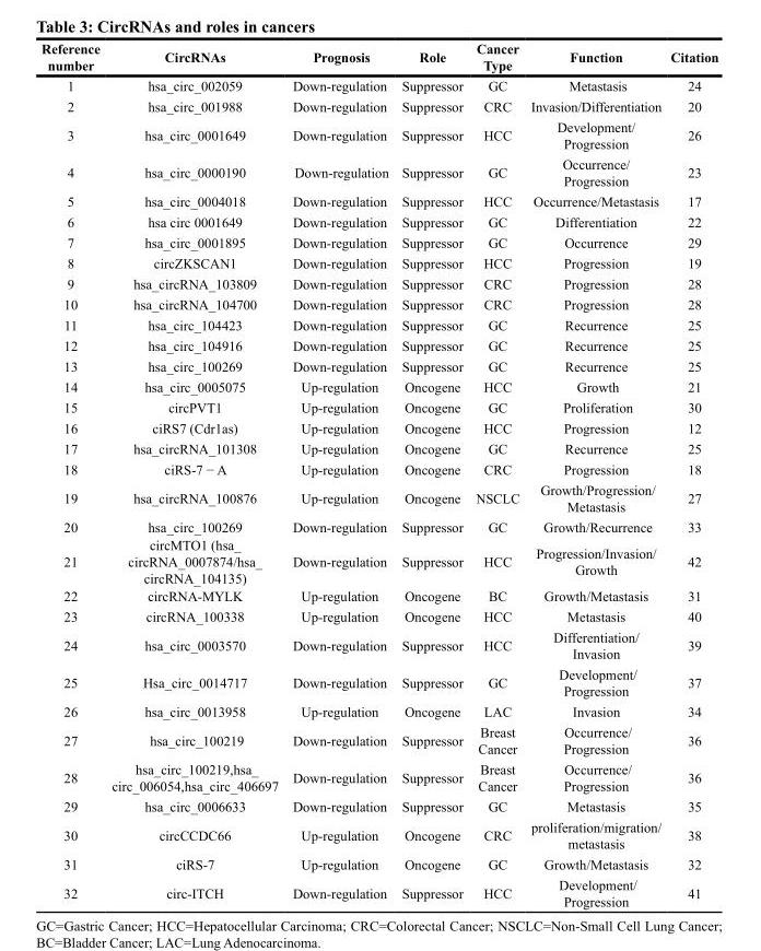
<table><thead><tr><td>Reference number</td><td>CircRNAs</td><td>Prognosis</td><td>Role</td><td>Cancer Type</td><td>Function</td><td>Citation</td></tr></thead><tbody><tr><td>1</td><td>hsa_circ_002059</td><td>Down-regulation</td><td>Suppressor</td><td>GC</td><td>Metastasis</td><td>24</td></tr><tr><td>2</td><td>hsa_circ_001988</td><td>Down-regulation</td><td>Suppressor</td><td>CRC</td><td>Invasion/Differentiation</td><td>20</td></tr><tr><td>3</td><td>hsa_circ_0001649</td><td>Down-regulation</td><td>Suppressor</td><td>HCC</td><td>Development/ Progression</td><td>26</td></tr><tr><td>4</td><td>hsa_circ_0000190</td><td>Down-regulation</td><td>Suppressor</td><td>GC</td><td>Occurrence/ Progression</td><td>23</td></tr><tr><td>5</td><td>hsa_circ_0004018</td><td>Down-regulation</td><td>Suppressor</td><td>HCC</td><td>Occurrence/Metastasis</td><td>17</td></tr><tr><td>6</td><td>hsa circ 0001649</td><td>Down-regulation</td><td>Suppressor</td><td>GC</td><td>Differentiation</td><td>22</td></tr><tr><td>7</td><td>hsa_circ_0001895</td><td>Down-regulation</td><td>Suppressor</td><td>GC</td><td>Occurrence</td><td>29</td></tr><tr><td>8</td><td>circZKSCAN1</td><td>Down-regulation</td><td>Suppressor</td><td>HCC</td><td>Progression</td><td>19</td></tr><tr><td>9</td><td>hsa_circRNA_103809</td><td>Down-regulation</td><td>Suppressor</td><td>CRC</td><td>Progression</td><td>28</td></tr><tr><td>10</td><td>hsa_circRNA_104700</td><td>Down-regulation</td><td>Suppressor</td><td>CRC</td><td>Progression</td><td>28</td></tr><tr><td>11</td><td>hsa_circ_104423</td><td>Down-regulation</td><td>Suppressor</td><td>GC</td><td>Recurrence</td><td>25</td></tr><tr><td>12</td><td>hsa_circ_104916</td><td>Down-regulation</td><td>Suppressor</td><td>GC</td><td>Recurrence</td><td>25</td></tr><tr><td>13</td><td>hsa_circ_100269</td><td>Down-regulation</td><td>Suppressor</td><td>GC</td><td>Recurrence</td><td>25</td></tr><tr><td>14</td><td>hsa_circ_0005075</td><td>Up-regulation</td><td>Oncogene</td><td>HCC</td><td>Growth</td><td>21</td></tr><tr><td>15</td><td>circPVT1</td><td>Up-regulation</td><td>Oncogene</td><td>GC</td><td>Proliferation</td><td>30</td></tr><tr><td>16</td><td>ciRS7 (Cdr1as)</td><td>Up-regulation</td><td>Oncogene</td><td>HCC</td><td>Progression</td><td>12</td></tr><tr><td>17</td><td>hsa_circRNA_101308</td><td>Up-regulation</td><td>Oncogene</td><td>GC</td><td>Recurrence</td><td>25</td></tr><tr><td>18</td><td>ciRS-7 − A</td><td>Up-regulation</td><td>Oncogene</td><td>CRC</td><td>Progression</td><td>18</td></tr><tr><td>19</td><td>hsa_circRNA_100876</td><td>Up-regulation</td><td>Oncogene</td><td>NSCLC</td><td>Growth/Progression/ Metastasis</td><td>27</td></tr><tr><td>20</td><td>hsa_circ_100269</td><td>Down-regulation</td><td>Suppressor</td><td>GC</td><td>Growth/Recurrence</td><td>33</td></tr><tr><td>21</td><td>circMTO1 (hsa_ circRNA_0007874/hsa_ circRNA_104135)</td><td>Down-regulation</td><td>Suppressor</td><td>HCC</td><td>Progression/Invasion/ Growth</td><td>42</td></tr><tr><td>22</td><td>circRNA-MYLK</td><td>Up-regulation</td><td>Oncogene</td><td>BC</td><td>Growth/Metastasis</td><td>31</td></tr><tr><td>23</td><td>circRNA_100338</td><td>Up-regulation</td><td>Oncogene</td><td>HCC</td><td>Metastasis</td><td>40</td></tr><tr><td>24</td><td>hsa_circ_0003570</td><td>Down-regulation</td><td>Suppressor</td><td>HCC</td><td>Differentiation/ Invasion</td><td>39</td></tr><tr><td>25</td><td>Hsa_circ_0014717</td><td>Down-regulation</td><td>Suppressor</td><td>GC</td><td>Development/ Progression</td><td>37</td></tr><tr><td>26</td><td>hsa_circ_0013958</td><td>Up-regulation</td><td>Oncogene</td><td>LAC</td><td>Invasion</td><td>34</td></tr><tr><td>27</td><td>hsa_circ_100219</td><td>Down-regulation</td><td>Suppressor</td><td>Breast Cancer</td><td>Occurrence/ Progression</td><td>36</td></tr><tr><td>28</td><td>hsa_circ_100219,hsa_ circ_006054,hsa_circ_406697</td><td>Down-regulation</td><td>Suppressor</td><td>Breast Cancer</td><td>Occurrence/ Progression</td><td>36</td></tr><tr><td>29</td><td>hsa_circ_0006633</td><td>Down-regulation</td><td>Suppressor</td><td>GC</td><td>Metastasis</td><td>35</td></tr><tr><td>30</td><td>circCCDC66</td><td>Up-regulation</td><td>Oncogene</td><td>CRC</td><td>proliferation/migration/ metastasis</td><td>38</td></tr><tr><td>31</td><td>ciRS-7</td><td>Up-regulation</td><td>Oncogene</td><td>GC</td><td>Growth/Metastasis</td><td>32</td></tr><tr><td>32</td><td>circ-ITCH</td><td>Down-regulation</td><td>Suppressor</td><td>HCC</td><td>Development/ Progression</td><td>41</td></tr></tbody></table>